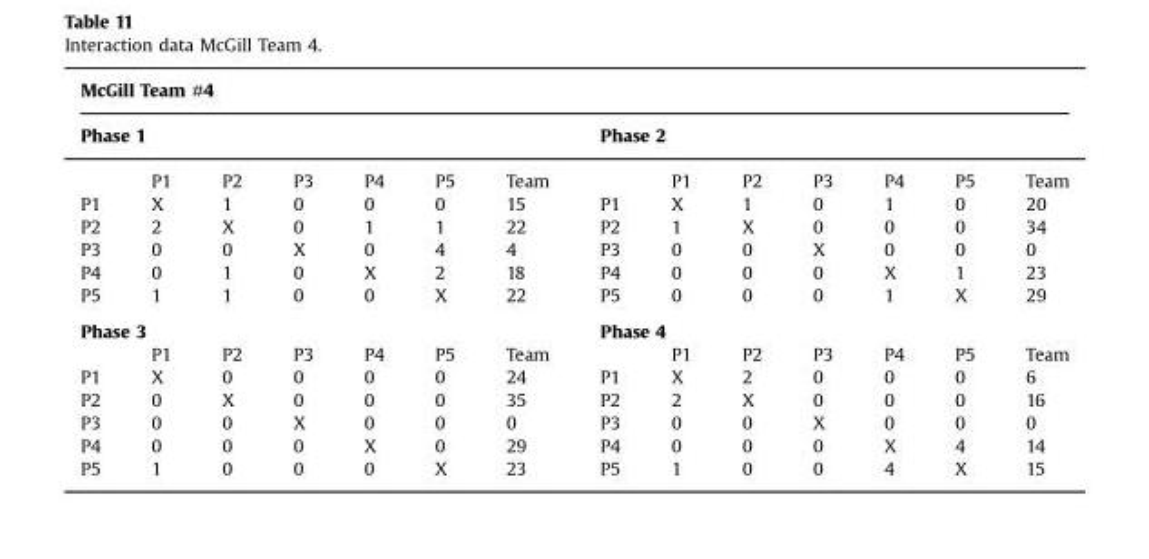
<table><thead><tr><td colspan="14">McGill Team #4</td></tr><tr><td colspan="7">Phase 1</td><td colspan="7">Phase 2</td></tr><tr><td></td><td>P1</td><td>P2</td><td>P3</td><td>P4</td><td>P5</td><td>Team</td><td></td><td>P1</td><td>P2</td><td>P3</td><td>P4</td><td>P5</td><td>Team</td></tr></thead><tbody><tr><td>P1</td><td>X</td><td>1</td><td>0</td><td>0</td><td>0</td><td>15</td><td>P1</td><td>X</td><td>1</td><td>0</td><td>1</td><td>0</td><td>20</td></tr><tr><td>P2</td><td>2</td><td>X</td><td>0</td><td>1</td><td>1</td><td>22</td><td>P2</td><td>1</td><td>X</td><td>0</td><td>0</td><td>0</td><td>34</td></tr><tr><td>P3</td><td>0</td><td>0</td><td>X</td><td>0</td><td>4</td><td>4</td><td>P3</td><td>0</td><td>0</td><td>X</td><td>0</td><td>0</td><td>0</td></tr><tr><td>P4</td><td>0</td><td>1</td><td>0</td><td>X</td><td>2</td><td>18</td><td>P4</td><td>0</td><td>0</td><td>0</td><td>X</td><td>1</td><td>23</td></tr><tr><td>P5</td><td>1</td><td>1</td><td>0</td><td>0</td><td>X</td><td>22</td><td>P5</td><td>0</td><td>0</td><td>0</td><td>1</td><td>X</td><td>29</td></tr><tr><td colspan="7">Phase 3</td><td colspan="7">Phase 4</td></tr><tr><td></td><td>P1</td><td>P2</td><td>P3</td><td>P4</td><td>P5</td><td>Team</td><td></td><td>P1</td><td>P2</td><td>P3</td><td>P4</td><td>P5</td><td>Team</td></tr><tr><td>P1</td><td>X</td><td>0</td><td>0</td><td>0</td><td>0</td><td>24</td><td>P1</td><td>X</td><td>2</td><td>0</td><td>0</td><td>0</td><td>6</td></tr><tr><td>P2</td><td>0</td><td>X</td><td>0</td><td>0</td><td>0</td><td>35</td><td>P2</td><td>2</td><td>X</td><td>0</td><td>0</td><td>0</td><td>16</td></tr><tr><td>P3</td><td>0</td><td>0</td><td>X</td><td>0</td><td>0</td><td>0</td><td>P3</td><td>0</td><td>0</td><td>X</td><td>0</td><td>0</td><td>0</td></tr><tr><td>P4</td><td>0</td><td>0</td><td>0</td><td>X</td><td>0</td><td>29</td><td>P4</td><td>0</td><td>0</td><td>0</td><td>X</td><td>4</td><td>14</td></tr><tr><td>P5</td><td>1</td><td>0</td><td>0</td><td>0</td><td>X</td><td>23</td><td>P5</td><td>1</td><td>0</td><td>0</td><td>4</td><td>X</td><td>15</td></tr></tbody></table>